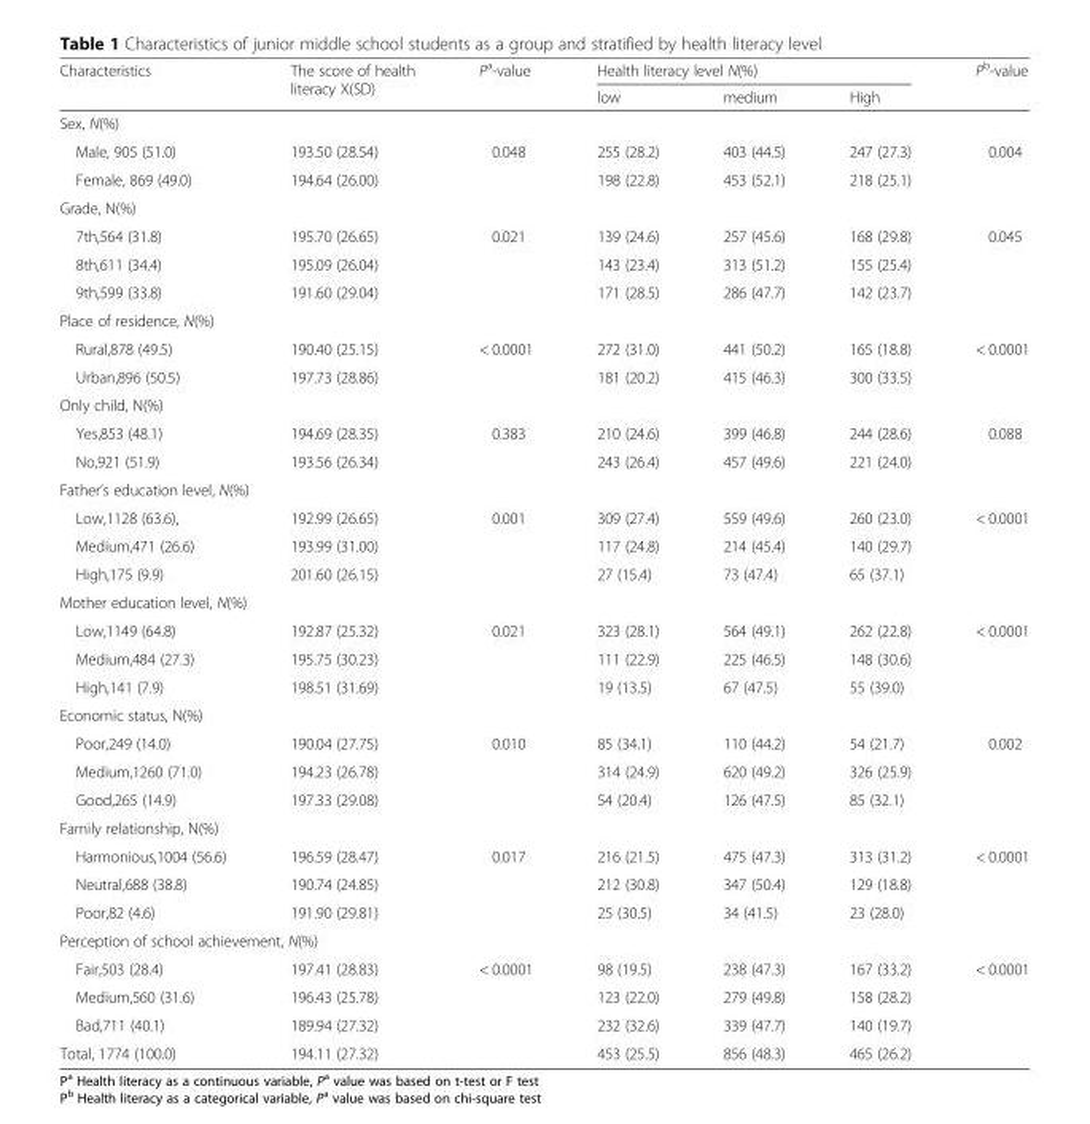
<table><thead><tr><td rowspan="2">Characteristics</td><td rowspan="2">The score of health literacy X(SD)</td><td rowspan="2">P<sup>a</sup>-value</td><td colspan="3">Health literacy level N(%)</td><td rowspan="2">P<sup>b</sup>-value</td></tr><tr><td>low</td><td>medium</td><td>High</td></tr></thead><tbody><tr><td colspan="7">Sex, N(%)</td></tr><tr><td>Male, 905 (51.0)</td><td>193.50 (28.54)</td><td>0.048</td><td>255 (28.2)</td><td>403 (44.5)</td><td>247 (27.3)</td><td>0.004</td></tr><tr><td>Female, 869 (49.0)</td><td>194.64 (26.00)</td><td></td><td>198 (22.8)</td><td>453 (52.1)</td><td>218 (25.1)</td><td></td></tr><tr><td colspan="7">Grade, N(%)</td></tr><tr><td>7th,564 (31.8)</td><td>195.70 (26.65)</td><td>0.021</td><td>139 (24.6)</td><td>257 (45.6)</td><td>168 (29.8)</td><td>0.045</td></tr><tr><td>8th,611 (34.4)</td><td>195.09 (26.04)</td><td></td><td>143 (23.4)</td><td>313 (51.2)</td><td>155 (25.4)</td><td></td></tr><tr><td>9th,599 (33.8)</td><td>191.60 (29.04)</td><td></td><td>171 (28.5)</td><td>286 (47.7)</td><td>142 (23.7)</td><td></td></tr><tr><td colspan="7">Place of residence, N(%)</td></tr><tr><td>Rural,878 (49.5)</td><td>190.40 (25.15)</td><td>&lt; 0.0001</td><td>272 (31.0)</td><td>441 (50.2)</td><td>165 (18.8)</td><td>&lt; 0.0001</td></tr><tr><td>Urban,896 (50.5)</td><td>197.73 (28.86)</td><td></td><td>181 (20.2)</td><td>415 (46.3)</td><td>300 (33.5)</td><td></td></tr><tr><td colspan="7">Only child, N(%)</td></tr><tr><td>Yes,853 (48.1)</td><td>194.69 (28.35)</td><td>0.383</td><td>210 (24.6)</td><td>399 (46.8)</td><td>244 (28.6)</td><td>0.088</td></tr><tr><td>No,921 (51.9)</td><td>193.56 (26.34)</td><td></td><td>243 (26.4)</td><td>457 (49.6)</td><td>221 (24.0)</td><td></td></tr><tr><td colspan="7">Father’s education level, N(%)</td></tr><tr><td>Low,1128 (63.6),</td><td>192.99 (26.65)</td><td>0.001</td><td>309 (27.4)</td><td>559 (49.6)</td><td>260 (23.0)</td><td>&lt; 0.0001</td></tr><tr><td>Medium,471 (26.6)</td><td>193.99 (31.00)</td><td></td><td>117 (24.8)</td><td>214 (45.4)</td><td>140 (29.7)</td><td></td></tr><tr><td>High,175 (9.9)</td><td>201.60 (26.15)</td><td></td><td>27 (15.4)</td><td>73 (47.4)</td><td>65 (37.1)</td><td></td></tr><tr><td colspan="7">Mother education level, N(%)</td></tr><tr><td>Low,1149 (64.8)</td><td>192.87 (25.32)</td><td>0.021</td><td>323 (28.1)</td><td>564 (49.1)</td><td>262 (22.8)</td><td>&lt; 0.0001</td></tr><tr><td>Medium,484 (27.3)</td><td>195.75 (30.23)</td><td></td><td>111 (22.9)</td><td>225 (46.5)</td><td>148 (30.6)</td><td></td></tr><tr><td>High,141 (7.9)</td><td>198.51 (31.69)</td><td></td><td>19 (13.5)</td><td>67 (47.5)</td><td>55 (39.0)</td><td></td></tr><tr><td colspan="7">Economic status, N(%)</td></tr><tr><td>Poor,249 (14.0)</td><td>190.04 (27.75)</td><td>0.010</td><td>85 (34.1)</td><td>110 (44.2)</td><td>54 (21.7)</td><td>0.002</td></tr><tr><td>Medium,1260 (71.0)</td><td>194.23 (26.78)</td><td></td><td>314 (24.9)</td><td>620 (49.2)</td><td>326 (25.9)</td><td></td></tr><tr><td>Good,265 (14.9)</td><td>197.33 (29.08)</td><td></td><td>54 (20.4)</td><td>126 (47.5)</td><td>85 (32.1)</td><td></td></tr><tr><td colspan="7">Family relationship, N(%)</td></tr><tr><td>Harmonious,1004 (56.6)</td><td>196.59 (28.47)</td><td>0.017</td><td>216 (21.5)</td><td>475 (47.3)</td><td>313 (31.2)</td><td>&lt; 0.0001</td></tr><tr><td>Neutral,688 (38.8)</td><td>190.74 (24.85)</td><td></td><td>212 (30.8)</td><td>347 (50.4)</td><td>129 (18.8)</td><td></td></tr><tr><td>Poor,82 (4.6)</td><td>191.90 (29.81)</td><td></td><td>25 (30.5)</td><td>34 (41.5)</td><td>23 (28.0)</td><td></td></tr><tr><td colspan="7">Perception of school achievement, N(%)</td></tr><tr><td>Fair,503 (28.4)</td><td>197.41 (28.83)</td><td>&lt; 0.0001</td><td>98 (19.5)</td><td>238 (47.3)</td><td>167 (33.2)</td><td>&lt; 0.0001</td></tr><tr><td>Medium,560 (31.6)</td><td>196.43 (25.78)</td><td></td><td>123 (22.0)</td><td>279 (49.8)</td><td>158 (28.2)</td><td></td></tr><tr><td>Bad,711 (40.1)</td><td>189.94 (27.32)</td><td></td><td>232 (32.6)</td><td>339 (47.7)</td><td>140 (19.7)</td><td></td></tr><tr><td>Total, 1774 (100.0)</td><td>194.11 (27.32)</td><td></td><td>453 (25.5)</td><td>856 (48.3)</td><td>465 (26.2)</td><td></td></tr></tbody></table>